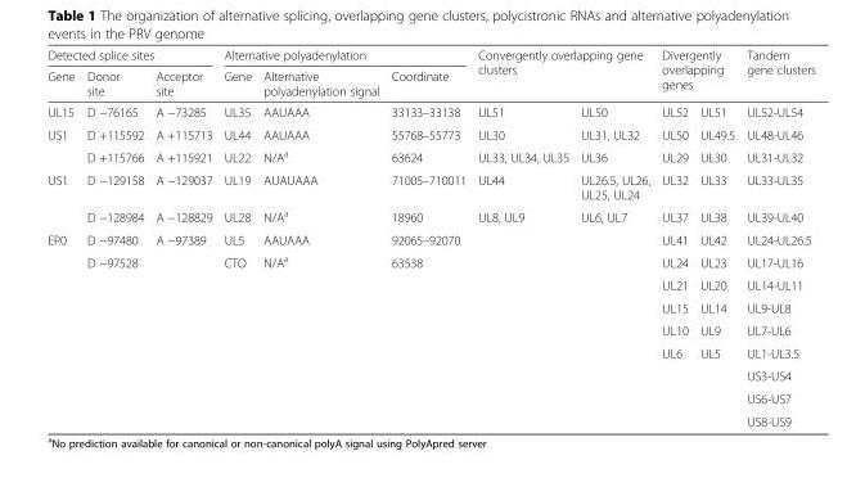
<table><thead><tr><td colspan="3">Detected splice sites</td><td colspan="3">Alternative polyadenylation</td><td rowspan="2" colspan="2">Convergently overlapping gene clusters</td><td rowspan="2" colspan="2">Divergently overlapping genes</td><td rowspan="3">Tandem gene clusters UL52-UL54</td></tr><tr><td rowspan="2">Gene UL15</td><td rowspan="2">Donor site D −76165</td><td rowspan="2">Acceptor site A −73285</td><td rowspan="2">Gene UL35</td><td rowspan="2">Alternative polyadenylation signal AAUAAA</td><td rowspan="2">Coordinate 33133–33138</td></tr><tr><td>UL51</td><td>UL50</td><td>UL52</td><td>UL51</td></tr></thead><tbody><tr><td rowspan="2">US1</td><td>D +115592</td><td>A +115713</td><td>UL44</td><td>AAUAAA</td><td>55768–55773</td><td>UL30</td><td>UL31, UL32</td><td>UL50</td><td>UL49.5</td><td>UL48-UL46</td></tr><tr><td>D +115766</td><td>A +115921</td><td>UL22</td><td>N/A<sup>a</sup></td><td>63624</td><td>UL33, UL34, UL35</td><td>UL36</td><td>UL29</td><td>UL30</td><td>UL31-UL32</td></tr><tr><td rowspan="2">US1</td><td>D −129158</td><td>A −129037</td><td>UL19</td><td>AUAUAAA</td><td>71005–710011</td><td>UL44</td><td>UL26.5, UL26, UL25, UL24</td><td>UL32</td><td>UL33</td><td>UL33-UL35</td></tr><tr><td>D −128984</td><td>A −128829</td><td>UL28</td><td>N/A<sup>a</sup></td><td>18960</td><td>UL8, UL9</td><td>UL6, UL7</td><td>UL37</td><td>UL38</td><td>UL39-UL40</td></tr><tr><td rowspan="9">EP0</td><td>D −97480</td><td>A −97389</td><td>UL5</td><td>AAUAAA</td><td>92065–92070</td><td></td><td></td><td>UL41</td><td>UL42</td><td>UL24-UL26.5</td></tr><tr><td>D −97528</td><td></td><td>CTO</td><td>N/A<sup>a</sup></td><td>63538</td><td></td><td></td><td>UL24</td><td>UL23</td><td>UL17-UL16</td></tr><tr><td></td><td></td><td></td><td></td><td></td><td></td><td></td><td>UL21</td><td>UL20</td><td>UL14-UL11</td></tr><tr><td></td><td></td><td></td><td></td><td></td><td></td><td></td><td>UL15</td><td>UL14</td><td>UL9-UL8</td></tr><tr><td></td><td></td><td></td><td></td><td></td><td></td><td></td><td>UL10</td><td>UL9</td><td>UL7-UL6</td></tr><tr><td></td><td></td><td></td><td></td><td></td><td></td><td></td><td>UL6</td><td>UL5</td><td>UL1-UL3.5</td></tr><tr><td></td><td></td><td></td><td></td><td></td><td></td><td></td><td></td><td></td><td>US3-US4</td></tr><tr><td></td><td></td><td></td><td></td><td></td><td></td><td></td><td></td><td></td><td>US6-US7</td></tr><tr><td></td><td></td><td></td><td></td><td></td><td></td><td></td><td></td><td></td><td>US8-US9</td></tr></tbody></table>